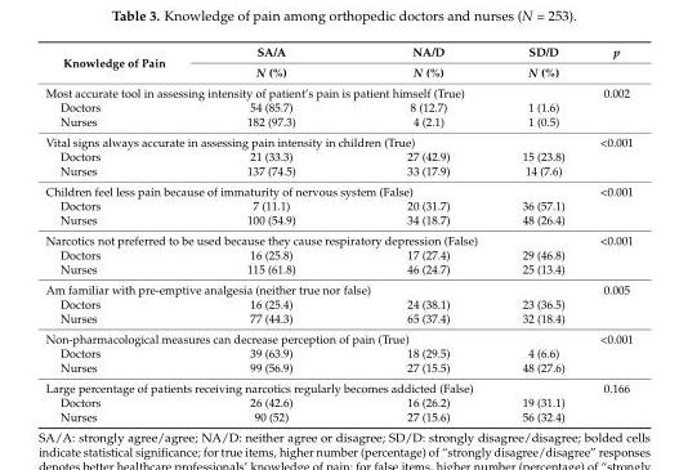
<table><thead><tr><td rowspan="2">Knowledge of Pain</td><td rowspan="2">SA/A N (%)</td><td rowspan="2">NA/D N (%)</td><td rowspan="2">SD/D N (%)</td><td rowspan="2">p</td></tr><tr></tr></thead><tbody><tr><td colspan="4">Most accurate tool in assessing intensity of patient’s pain is patient himself (True)</td><td>0.002</td></tr><tr><td>Doctors</td><td>54 (85.7)</td><td>8 (12.7)</td><td>1 (1.6)</td><td rowspan="2"></td></tr><tr><td>Nurses</td><td>182 (97.3)</td><td>4 (2.1)</td><td>1 (0.5)</td></tr><tr><td colspan="4">Vital signs always accurate in assessing pain intensity in children (True)</td><td>&lt;0.001</td></tr><tr><td>Doctors</td><td>21 (33.3)</td><td>27 (42.9)</td><td>15 (23.8)</td><td rowspan="2"></td></tr><tr><td>Nurses</td><td>137 (74.5)</td><td>33 (17.9)</td><td>14 (7.6)</td></tr><tr><td colspan="4">Children feel less pain because of immaturity of nervous system (False)</td><td>&lt;0.001</td></tr><tr><td>Doctors</td><td>7 (11.1)</td><td>20 (31.7)</td><td>36 (57.1)</td><td></td></tr><tr><td>Nurses</td><td>100 (54.9)</td><td>34 (18.7)</td><td>48 (26.4)</td><td></td></tr><tr><td colspan="4">Narcotics not preferred to be used because they cause respiratory depression (False)</td><td>&lt;0.001</td></tr><tr><td>Doctors</td><td>16 (25.8)</td><td>17 (27.4)</td><td>29 (46.8)</td><td></td></tr><tr><td>Nurses</td><td>115 (61.8)</td><td>46 (24.7)</td><td>25 (13.4)</td><td></td></tr><tr><td colspan="3">Am familiar with pre-emptive analgesia (neither true nor false)</td><td></td><td>0.005</td></tr><tr><td>Doctors</td><td>16 (25.4)</td><td>24 (38.1)</td><td>23 (36.5)</td><td></td></tr><tr><td>Nurses</td><td>77 (44.3)</td><td>65 (37.4)</td><td>32 (18.4)</td><td></td></tr><tr><td colspan="3">Non-pharmacological measures can decrease perception of pain (True)</td><td></td><td>&lt;0.001</td></tr><tr><td>Doctors</td><td>39 (63.9)</td><td>18 (29.5)</td><td>4 (6.6)</td><td></td></tr><tr><td>Nurses</td><td>99 (56.9)</td><td>27 (15.5)</td><td>48 (27.6)</td><td></td></tr><tr><td colspan="4">Large percentage of patients receiving narcotics regularly becomes addicted (False)</td><td>0.166</td></tr><tr><td>Doctors</td><td>26 (42.6)</td><td>16 (26.2)</td><td>19 (31.1)</td><td></td></tr><tr><td>Nurses</td><td>90 (52)</td><td>27 (15.6)</td><td>56 (32.4)</td><td></td></tr></tbody></table>